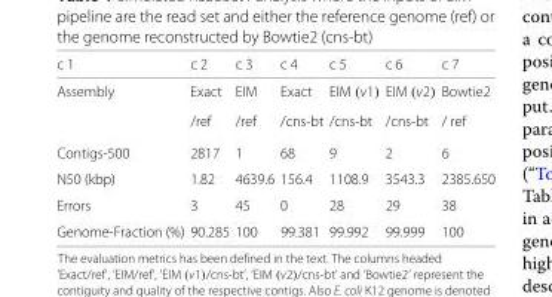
<table><thead><tr><td>c 1</td><td>c 2</td><td>c 3</td><td>c 4</td><td>c 5</td><td>c 6</td><td>c 7</td></tr></thead><tbody><tr><td rowspan="2">Assembly</td><td>Exact</td><td>EIM</td><td>Exact</td><td>EIM (v1)</td><td>EIM (v2)</td><td>Bowtie2</td></tr><tr><td>/ref</td><td>/ref</td><td>/cns-bt</td><td>/cns-bt</td><td>/cns-bt</td><td>/ ref</td></tr><tr><td>Contigs-500</td><td>2817</td><td>1</td><td>68</td><td>9</td><td>2</td><td>6</td></tr><tr><td>N50 (kbp)</td><td>1.82</td><td>4639.6</td><td>156.4</td><td>1108.9</td><td>3543.3</td><td>2385.650</td></tr><tr><td>Errors</td><td>3</td><td>45</td><td>0</td><td>28</td><td>29</td><td>38</td></tr><tr><td>Genome-Fraction (%)</td><td>90.285</td><td>100</td><td>99.381</td><td>99.992</td><td>99.999</td><td>100</td></tr></tbody></table>